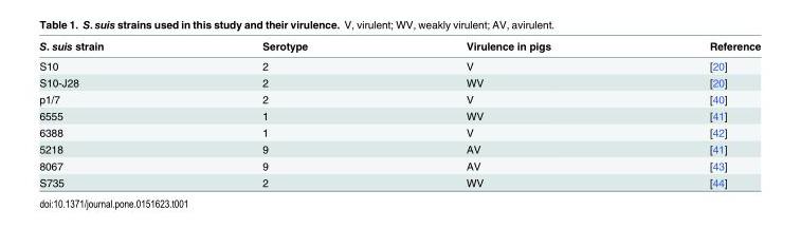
<table><thead><tr><td>S. suis strain</td><td>Serotype</td><td>Virulence in pigs</td><td>Reference</td></tr></thead><tbody><tr><td>S10</td><td>2</td><td>V</td><td>[20]</td></tr><tr><td>S10-J28</td><td>2</td><td>WV</td><td>[20]</td></tr><tr><td>p1/7</td><td>2</td><td>V</td><td>[40]</td></tr><tr><td>6555</td><td>1</td><td>WV</td><td>[41]</td></tr><tr><td>6388</td><td>1</td><td>V</td><td>[42]</td></tr><tr><td>5218</td><td>9</td><td>AV</td><td>[41]</td></tr><tr><td>8067</td><td>9</td><td>AV</td><td>[43]</td></tr><tr><td>S735</td><td>2</td><td>WV</td><td>[44]</td></tr></tbody></table>